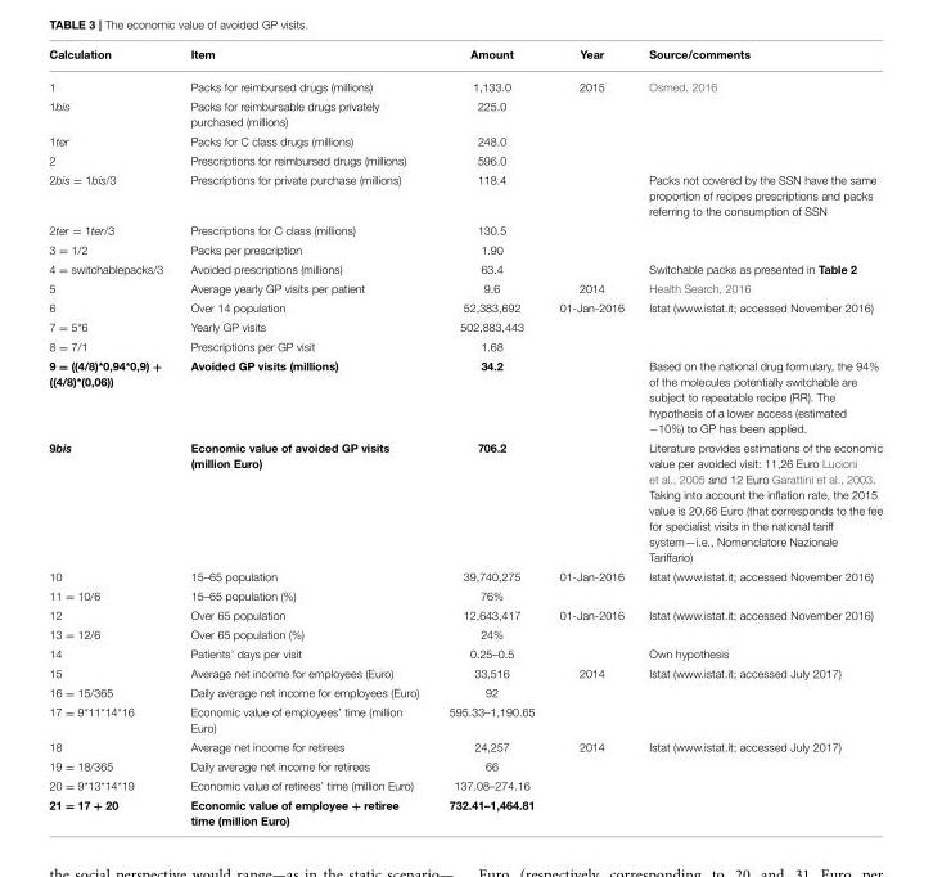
<table><thead><tr><td>Calculation</td><td>Item</td><td>Amount</td><td>Year</td><td>Source/comments</td></tr></thead><tbody><tr><td>1</td><td>Packs for reimbursed drugs (millions)</td><td>1,133.0</td><td>2015</td><td>Osmed, 2016</td></tr><tr><td>1bis</td><td>Packs for reimbursable drugs privately purchased (millions)</td><td>225.0</td><td></td><td></td></tr><tr><td>1ter</td><td>Packs for C class drugs (millions)</td><td>248.0</td><td></td><td></td></tr><tr><td>2</td><td>Prescriptions for reimbursed drugs (millions)</td><td>596.0</td><td></td><td></td></tr><tr><td>2bis = 1bis/3</td><td>Prescriptions for private purchase (millions)</td><td>118.4</td><td></td><td>Packs not covered by the SSN have the same proportion of recipes prescriptions and packs referring to the consumption of SSN</td></tr><tr><td>2ter = 1ter/3</td><td>Prescriptions for C class (millions)</td><td>130.5</td><td></td><td></td></tr><tr><td>3 = 1/2</td><td>Packs per prescription</td><td>1.90</td><td></td><td></td></tr><tr><td>4 = switchablepacks/3</td><td>Avoided prescriptions (millions)</td><td>63.4</td><td></td><td>Switchable packs as presented in Table 2</td></tr><tr><td>5</td><td>Average yearly GP visits per patient</td><td>9.6</td><td>2014</td><td>Health Search, 2016</td></tr><tr><td>6</td><td>Over 14 population</td><td>52,383,692</td><td>01-Jan-2016</td><td>Istat (www.istat.it; accessed November 2016)</td></tr><tr><td>7 = 5*6</td><td>Yearly GP visits</td><td>502,883,443</td><td></td><td></td></tr><tr><td>8 = 7/1</td><td>Prescriptions per GP visit</td><td>1.68</td><td></td><td></td></tr><tr><td>9 = ((4/8)*0,94*0,9) + ((4/8)*(0,06))</td><td>Avoided GP visits (millions)</td><td>34.2</td><td></td><td>Based on the national drug formulary, the 94% of the molecules potentially switchable are subject to repeatable recipe (RR). The hypothesis of a lower access (estimated −10%) to GP has been applied.</td></tr><tr><td>9bis</td><td>Economic value of avoided GP visits (million Euro)</td><td>706.2</td><td></td><td>Literature provides estimations of the economic value per avoided visit: 11,26 Euro Lucioni et al., 2005 and 12 Euro Garattini et al., 2003. Taking into account the inflation rate, the 2015 value is 20,66 Euro (that corresponds to the fee for specialist visits in the national tariff system—i.e., Nomenclatore Nazionale Tariffario)</td></tr><tr><td>10</td><td>15–65 population</td><td>39,740,275</td><td>01-Jan-2016</td><td>Istat (www.istat.it; accessed November 2016)</td></tr><tr><td>11 = 10/6</td><td>15–65 population (%)</td><td>76%</td><td></td><td></td></tr><tr><td>12</td><td>Over 65 population</td><td>12,643,417</td><td>01-Jan-2016</td><td>Istat (www.istat.it; accessed November 2016)</td></tr><tr><td>13 = 12/6</td><td>Over 65 population (%)</td><td>24%</td><td></td><td></td></tr><tr><td>14</td><td>Patients’ days per visit</td><td>0.25–0.5</td><td></td><td>Own hypothesis</td></tr><tr><td>15</td><td>Average net income for employees (Euro)</td><td>33,516</td><td>2014</td><td>Istat (www.istat.it; accessed July 2017)</td></tr><tr><td>16 = 15/365</td><td>Daily average net income for employees (Euro)</td><td>92</td><td></td><td></td></tr><tr><td>17 = 9*11*14*16</td><td>Economic value of employees’ time (million Euro)</td><td>595.33–1,190.65</td><td></td><td></td></tr><tr><td>18</td><td>Average net income for retirees</td><td>24,257</td><td>2014</td><td>Istat (www.istat.it; accessed July 2017)</td></tr><tr><td>19 = 18/365</td><td>Daily average net income for retirees</td><td>66</td><td></td><td></td></tr><tr><td>20 = 9*13*14*19</td><td>Economic value of retirees’ time (million Euro)</td><td>137.08–274.16</td><td></td><td></td></tr><tr><td>21 = 17 + 20</td><td>Economic value of employee + retiree time (million Euro)</td><td>732.41–1,464.81</td><td></td><td></td></tr></tbody></table>